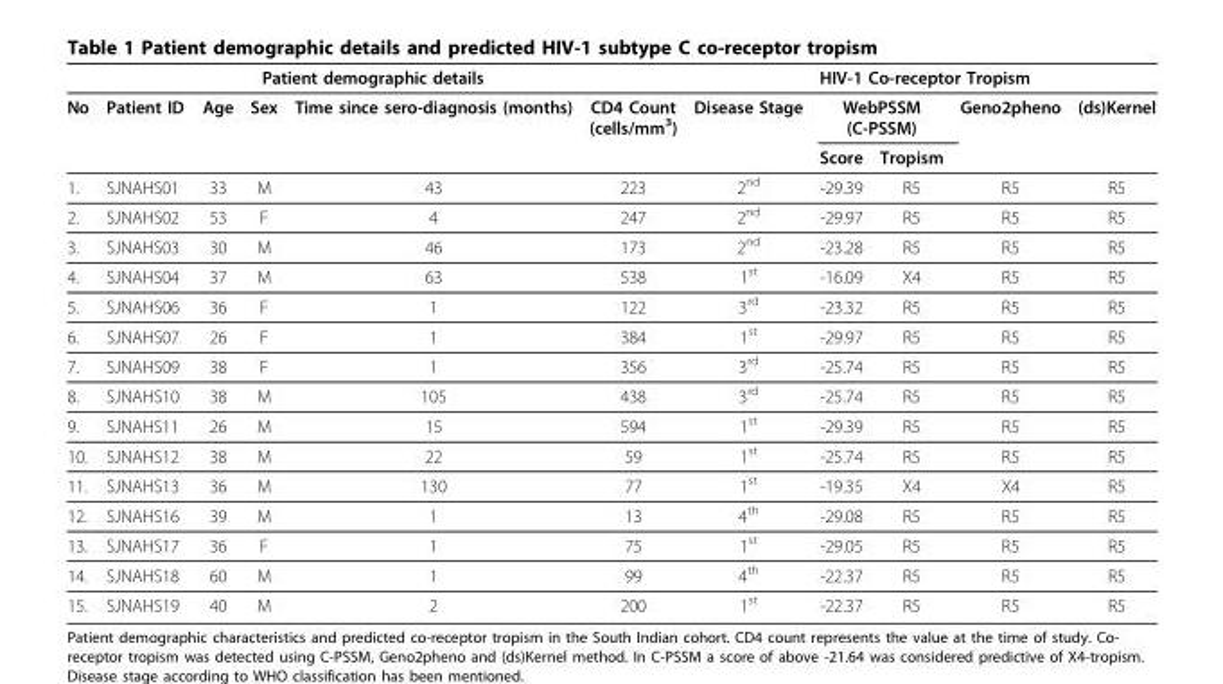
<table><thead><tr><td colspan="6">Patient demographic details</td><td colspan="5">HIV-1 Co-receptor Tropism</td></tr><tr><td rowspan="2">No</td><td rowspan="2">Patient ID</td><td rowspan="2">Age</td><td rowspan="2">Sex</td><td rowspan="2">Time since sero-diagnosis (months)</td><td rowspan="2">CD4 Count (cells/mm<sup>3</sup>)</td><td rowspan="2">Disease Stage</td><td colspan="2">WebPSSM (C-PSSM)</td><td rowspan="2">Geno2pheno</td><td rowspan="2">(ds)Kernel</td></tr><tr><td>Score</td><td>Tropism</td></tr></thead><tbody><tr><td>1.</td><td>SJNAHS01</td><td>33</td><td>M</td><td>43</td><td>223</td><td>2<sup>nd</sup></td><td>-29.39</td><td>R5</td><td>R5</td><td>R5</td></tr><tr><td>2.</td><td>SJNAHS02</td><td>53</td><td>F</td><td>4</td><td>247</td><td>2<sup>nd</sup></td><td>-29.97</td><td>R5</td><td>R5</td><td>R5</td></tr><tr><td>3.</td><td>SJNAHS03</td><td>30</td><td>M</td><td>46</td><td>173</td><td>2<sup>nd</sup></td><td>-23.28</td><td>R5</td><td>R5</td><td>R5</td></tr><tr><td>4.</td><td>SJNAHS04</td><td>37</td><td>M</td><td>63</td><td>538</td><td>1<sup>st</sup></td><td>-16.09</td><td>X4</td><td>R5</td><td>R5</td></tr><tr><td>5.</td><td>SJNAHS06</td><td>36</td><td>F</td><td>1</td><td>122</td><td>3<sup>rd</sup></td><td>-23.32</td><td>R5</td><td>R5</td><td>R5</td></tr><tr><td>6.</td><td>SJNAHS07</td><td>26</td><td>F</td><td>1</td><td>384</td><td>1<sup>st</sup></td><td>-29.97</td><td>R5</td><td>R5</td><td>R5</td></tr><tr><td>7.</td><td>SJNAHS09</td><td>38</td><td>F</td><td>1</td><td>356</td><td>3<sup>rd</sup></td><td>-25.74</td><td>R5</td><td>R5</td><td>R5</td></tr><tr><td>8.</td><td>SJNAHS10</td><td>38</td><td>M</td><td>105</td><td>438</td><td>3<sup>rd</sup></td><td>-25.74</td><td>R5</td><td>R5</td><td>R5</td></tr><tr><td>9.</td><td>SJNAHS11</td><td>26</td><td>M</td><td>15</td><td>594</td><td>1<sup>st</sup></td><td>-29.39</td><td>R5</td><td>R5</td><td>R5</td></tr><tr><td>10.</td><td>SJNAHS12</td><td>38</td><td>M</td><td>22</td><td>59</td><td>1<sup>st</sup></td><td>-25.74</td><td>R5</td><td>R5</td><td>R5</td></tr><tr><td>11.</td><td>SJNAHS13</td><td>36</td><td>M</td><td>130</td><td>77</td><td>1<sup>st</sup></td><td>-19.35</td><td>X4</td><td>X4</td><td>R5</td></tr><tr><td>12.</td><td>SJNAHS16</td><td>39</td><td>M</td><td>1</td><td>13</td><td>4<sup>th</sup></td><td>-29.08</td><td>R5</td><td>R5</td><td>R5</td></tr><tr><td>13.</td><td>SJNAHS17</td><td>36</td><td>F</td><td>1</td><td>75</td><td>1<sup>st</sup></td><td>-29.05</td><td>R5</td><td>R5</td><td>R5</td></tr><tr><td>14.</td><td>SJNAHS18</td><td>60</td><td>M</td><td>1</td><td>99</td><td>4<sup>th</sup></td><td>-22.37</td><td>R5</td><td>R5</td><td>R5</td></tr><tr><td>15.</td><td>SJNAHS19</td><td>40</td><td>M</td><td>2</td><td>200</td><td>1<sup>st</sup></td><td>-22.37</td><td>R5</td><td>R5</td><td>R5</td></tr></tbody></table>